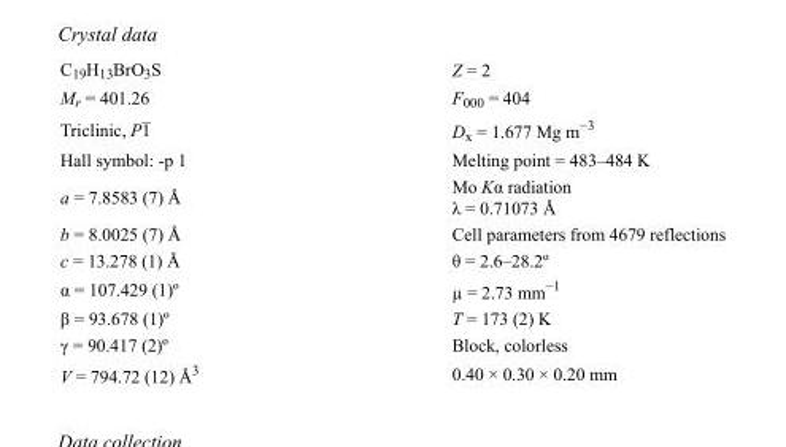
<table><tbody><tr><td>C<sub>19</sub>H<sub>13</sub>BrO<sub>3</sub>S</td><td>Z = 2</td></tr><tr><td>M<sub>r</sub> = 401.26</td><td>F<sub>000</sub> = 404</td></tr><tr><td>Triclinic, P1</td><td>D<sub>x</sub> = 1.677 Mg m<sup>−3</sup></td></tr><tr><td>Hall symbol: -p 1</td><td>Melting point = 483–484 K</td></tr><tr><td>a = 7.8583 (7) Å</td><td>Mo Kα radiation λ = 0.71073 Å</td></tr><tr><td>b = 8.0025 (7) Å</td><td>Cell parameters from 4679 reflections</td></tr><tr><td>c = 13.278 (1) Å</td><td>θ = 2.6–28.2º</td></tr><tr><td>α = 107.429 (1)º</td><td>µ = 2.73 mm<sup>−1</sup></td></tr><tr><td>β = 93.678 (1)º</td><td>T = 173 (2) K</td></tr><tr><td>γ = 90.417 (2)º</td><td>Block, colorless</td></tr><tr><td>V = 794.72 (12) Å<sup>3</sup></td><td>0.40 × 0.30 × 0.20 mm</td></tr></tbody></table>